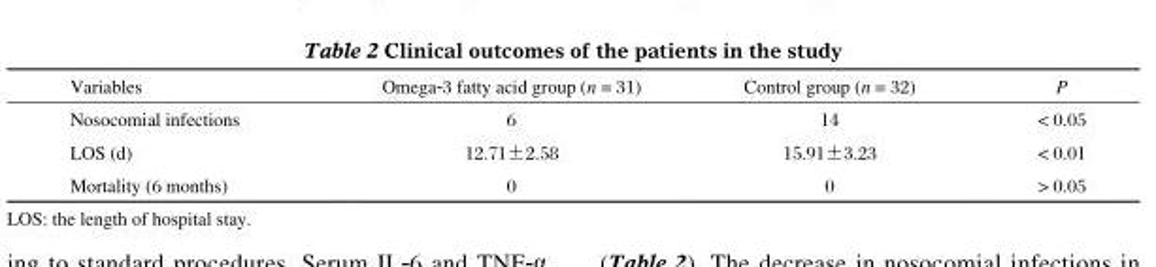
<table><thead><tr><td>Variables</td><td>Omega-3 fatty acid group (n = 31)</td><td>Control group (n = 32)</td><td>P</td></tr></thead><tbody><tr><td>Nosocomial infections</td><td>6</td><td>14</td><td>&lt; 0.05</td></tr><tr><td>LOS (d)</td><td>12.71±2.58</td><td>15.91±3.23</td><td>&lt; 0.01</td></tr><tr><td>Mortality (6 months)</td><td>0</td><td>0</td><td>&gt; 0.05</td></tr></tbody></table>